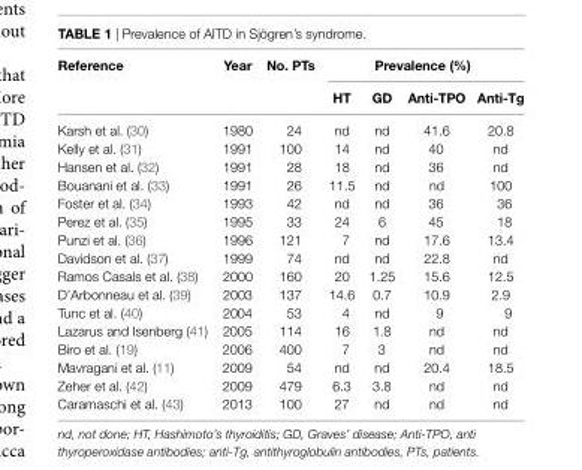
<table><thead><tr><td rowspan="2">Reference</td><td rowspan="2">Year</td><td rowspan="2">no. PTs</td><td colspan="4">Prevalence (%)</td></tr><tr><td>HT</td><td>GD</td><td>Anti-TPO</td><td>Anti-Tg</td></tr></thead><tbody><tr><td>Karsh et al. (30)</td><td>1980</td><td>24</td><td>nd</td><td>nd</td><td>41.6</td><td>20.8</td></tr><tr><td>Kelly et al. (31)</td><td>1991</td><td>100</td><td>14</td><td>nd</td><td>40</td><td>nd</td></tr><tr><td>Hansen et al. (32)</td><td>1991</td><td>28</td><td>18</td><td>nd</td><td>36</td><td>nd</td></tr><tr><td>Bouanani et al. (33)</td><td>1991</td><td>26</td><td>11.5</td><td>nd</td><td>nd</td><td>100</td></tr><tr><td>Foster et al. (34)</td><td>1993</td><td>42</td><td>nd</td><td>nd</td><td>36</td><td>36</td></tr><tr><td>Perez et al. (35)</td><td>1995</td><td>33</td><td>24</td><td>6</td><td>45</td><td>18</td></tr><tr><td>Punzi et al. (36)</td><td>1996</td><td>121</td><td>7</td><td>nd</td><td>17.6</td><td>13.4</td></tr><tr><td>Davidson et al. (37)</td><td>1999</td><td>74</td><td>nd</td><td>nd</td><td>22.8</td><td>nd</td></tr><tr><td>Ramos Casals et al. (38)</td><td>2000</td><td>160</td><td>20</td><td>1.25</td><td>15.6</td><td>12.5</td></tr><tr><td>D’Arbonneau et al. (39)</td><td>2003</td><td>137</td><td>14.6</td><td>0.7</td><td>10.9</td><td>2.9</td></tr><tr><td>Tunc et al. (40)</td><td>2004</td><td>53</td><td>4</td><td>nd</td><td>9</td><td>9</td></tr><tr><td>Lazarus and Isenberg (41)</td><td>2005</td><td>114</td><td>16</td><td>1.8</td><td>nd</td><td>nd</td></tr><tr><td>Biro et al. (19)</td><td>2006</td><td>400</td><td>7</td><td>3</td><td>nd</td><td>nd</td></tr><tr><td>Mavragani et al. (11)</td><td>2009</td><td>54</td><td>nd</td><td>nd</td><td>20.4</td><td>18.5</td></tr><tr><td>Zeher et al. (42)</td><td>2009</td><td>479</td><td>6.3</td><td>3.8</td><td>nd</td><td>nd</td></tr><tr><td>Caramaschi et al. (43)</td><td>2013</td><td>100</td><td>27</td><td>nd</td><td>nd</td><td>nd</td></tr></tbody></table>